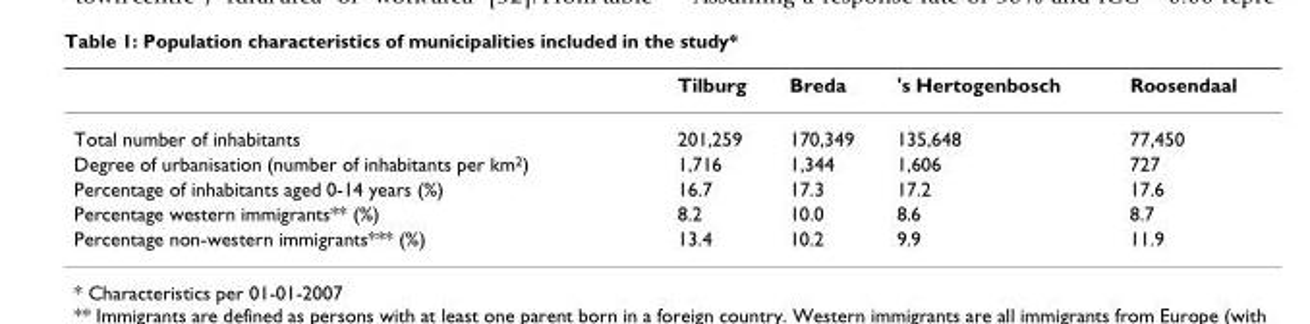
<table><thead><tr><td></td><td>Tilburg</td><td>Breda</td><td>&#x27;s Hertogenbosch</td><td>Roosendaal</td></tr></thead><tbody><tr><td>Total number of inhabitants</td><td>201,259</td><td>170,349</td><td>135,648</td><td>77,450</td></tr><tr><td>Degree of urbanisation (number of inhabitants per km<sup>2</sup>)</td><td>1,716</td><td>1,344</td><td>1,606</td><td>727</td></tr><tr><td>Percentage of inhabitants aged 0-14 years (%)</td><td>16.7</td><td>17.3</td><td>17.2</td><td>17.6</td></tr><tr><td>Percentage western immigrants** (%)</td><td>8.2</td><td>10.0</td><td>8.6</td><td>8.7</td></tr><tr><td>Percentage non-western immigrants*** (%)</td><td>13.4</td><td>10.2</td><td>9.9</td><td>11.9</td></tr></tbody></table>